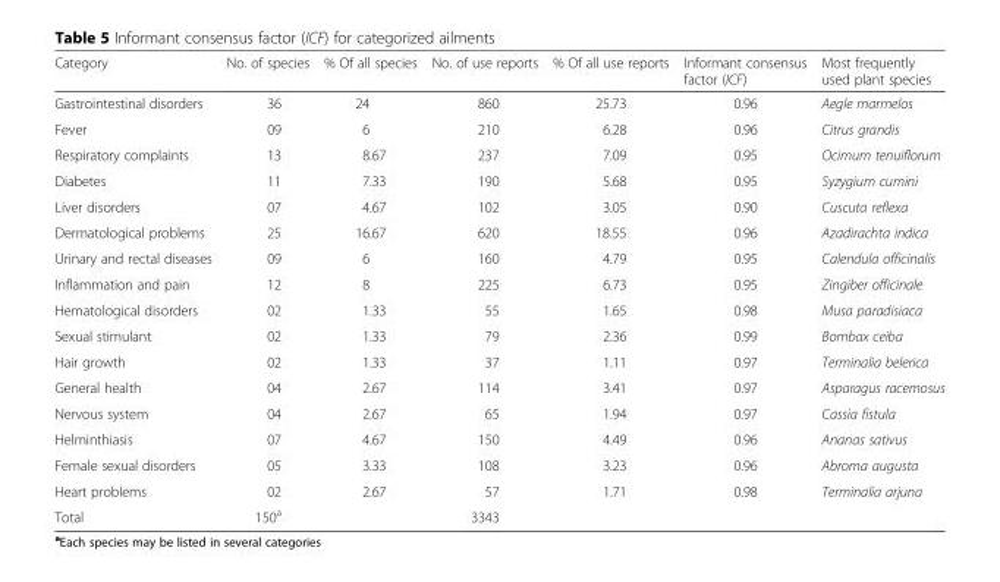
<table><thead><tr><td>Category</td><td>No. of species</td><td>% Of all species</td><td>No. of use reports</td><td>% Of all use reports</td><td>Informant consensus factor (ICF)</td><td>Most frequently used plant species</td></tr></thead><tbody><tr><td>Gastrointestinal disorders</td><td>36</td><td>24</td><td>860</td><td>25.73</td><td>0.96</td><td>Aegle marmelos</td></tr><tr><td>Fever</td><td>09</td><td>6</td><td>210</td><td>6.28</td><td>0.96</td><td>Citrus grandis</td></tr><tr><td>Respiratory complaints</td><td>13</td><td>8.67</td><td>237</td><td>7.09</td><td>0.95</td><td>Ocimum tenuiflorum</td></tr><tr><td>Diabetes</td><td>11</td><td>7.33</td><td>190</td><td>5.68</td><td>0.95</td><td>Syzygium cumini</td></tr><tr><td>Liver disorders</td><td>07</td><td>4.67</td><td>102</td><td>3.05</td><td>0.90</td><td>Cuscuta reflexa</td></tr><tr><td>Dermatological problems</td><td>25</td><td>16.67</td><td>620</td><td>18.55</td><td>0.96</td><td>Azadirachta indica</td></tr><tr><td>Urinary and rectal diseases</td><td>09</td><td>6</td><td>160</td><td>4.79</td><td>0.95</td><td>Calendula officinalis</td></tr><tr><td>Inflammation and pain</td><td>12</td><td>8</td><td>225</td><td>6.73</td><td>0.95</td><td>Zingiber officinale</td></tr><tr><td>Hematological disorders</td><td>02</td><td>1.33</td><td>55</td><td>1.65</td><td>0.98</td><td>Musa paradisiaca</td></tr><tr><td>Sexual stimulant</td><td>02</td><td>1.33</td><td>79</td><td>2.36</td><td>0.99</td><td>Bombax ceiba</td></tr><tr><td>Hair growth</td><td>02</td><td>1.33</td><td>37</td><td>1.11</td><td>0.97</td><td>Terminalia belerica</td></tr><tr><td>General health</td><td>04</td><td>2.67</td><td>114</td><td>3.41</td><td>0.97</td><td>Asparagus racemosus</td></tr><tr><td>Nervous system</td><td>04</td><td>2.67</td><td>65</td><td>1.94</td><td>0.97</td><td>Cassia fistula</td></tr><tr><td>Helminthiasis</td><td>07</td><td>4.67</td><td>150</td><td>4.49</td><td>0.96</td><td>Ananas sativus</td></tr><tr><td>Female sexual disorders</td><td>05</td><td>3.33</td><td>108</td><td>3.23</td><td>0.96</td><td>Abroma augusta</td></tr><tr><td>Heart problems</td><td>02</td><td>2.67</td><td>57</td><td>1.71</td><td>0.98</td><td>Terminalia arjuna</td></tr><tr><td>Total</td><td>150<sup>a</sup></td><td></td><td>3343</td><td></td><td></td><td></td></tr></tbody></table>